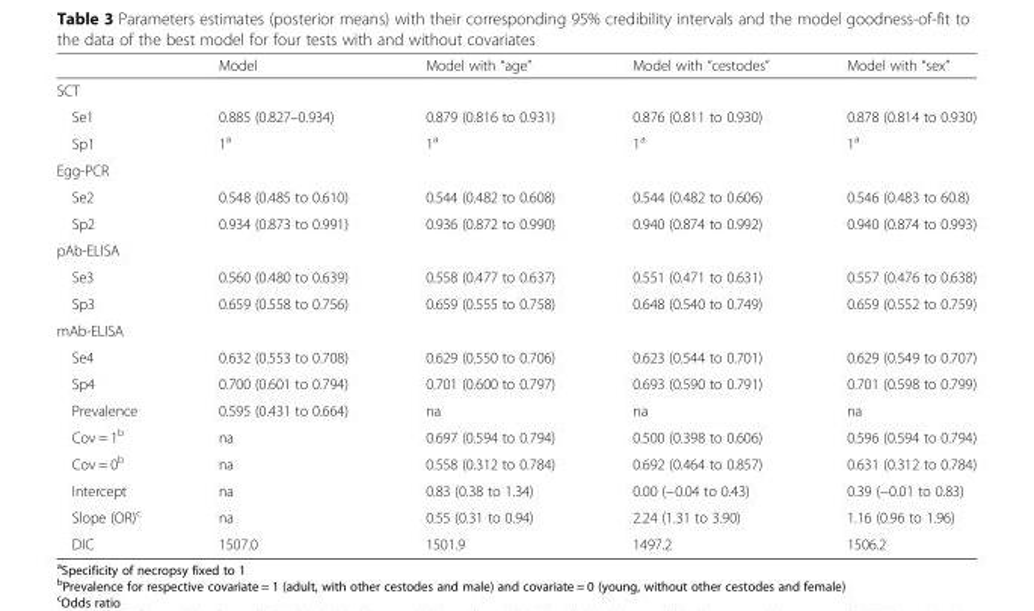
<table><thead><tr><td></td><td>Model</td><td>Model with “age”</td><td>Model with “cestodes”</td><td>Model with “sex”</td></tr></thead><tbody><tr><td colspan="5">SCT</td></tr><tr><td>Se1</td><td>0.885 (0.827–0.934)</td><td>0.879 (0.816 to 0.931)</td><td>0.876 (0.811 to 0.930)</td><td>0.878 (0.814 to 0.930)</td></tr><tr><td>Sp1</td><td>1<sup>a</sup></td><td>1<sup>a</sup></td><td>1<sup>a</sup></td><td>1<sup>a</sup></td></tr><tr><td colspan="5">Egg-PCR</td></tr><tr><td>Se2</td><td>0.548 (0.485 to 0.610)</td><td>0.544 (0.482 to 0.608)</td><td>0.544 (0.482 to 0.606)</td><td>0.546 (0.483 to 60.8)</td></tr><tr><td>Sp2</td><td>0.934 (0.873 to 0.991)</td><td>0.936 (0.872 to 0.990)</td><td>0.940 (0.874 to 0.992)</td><td>0.940 (0.874 to 0.993)</td></tr><tr><td colspan="5">pAb-ELISA</td></tr><tr><td>Se3</td><td>0.560 (0.480 to 0.639)</td><td>0.558 (0.477 to 0.637)</td><td>0.551 (0.471 to 0.631)</td><td>0.557 (0.476 to 0.638)</td></tr><tr><td>Sp3</td><td>0.659 (0.558 to 0.756)</td><td>0.659 (0.555 to 0.758)</td><td>0.648 (0.540 to 0.749)</td><td>0.659 (0.552 to 0.759)</td></tr><tr><td colspan="5">mAb-ELISA</td></tr><tr><td>Se4</td><td>0.632 (0.553 to 0.708)</td><td>0.629 (0.550 to 0.706)</td><td>0.623 (0.544 to 0.701)</td><td>0.629 (0.549 to 0.707)</td></tr><tr><td>Sp4</td><td>0.700 (0.601 to 0.794)</td><td>0.701 (0.600 to 0.797)</td><td>0.693 (0.590 to 0.791)</td><td>0.701 (0.598 to 0.799)</td></tr><tr><td>Prevalence</td><td>0.595 (0.431 to 0.664)</td><td>na</td><td>na</td><td>na</td></tr><tr><td>Cov = 1<sup>b</sup></td><td>na</td><td>0.697 (0.594 to 0.794)</td><td>0.500 (0.398 to 0.606)</td><td>0.596 (0.594 to 0.794)</td></tr><tr><td>Cov = 0<sup>b</sup></td><td>na</td><td>0.558 (0.312 to 0.784)</td><td>0.692 (0.464 to 0.857)</td><td>0.631 (0.312 to 0.784)</td></tr><tr><td>Intercept</td><td>na</td><td>0.83 (0.38 to 1.34)</td><td>0.00 (−0.04 to 0.43)</td><td>0.39 (−0.01 to 0.83)</td></tr><tr><td>Slope (OR)<sup>c</sup></td><td>na</td><td>0.55 (0.31 to 0.94)</td><td>2.24 (1.31 to 3.90)</td><td>1.16 (0.96 to 1.96)</td></tr><tr><td>DIC</td><td>1507.0</td><td>1501.9</td><td>1497.2</td><td>1506.2</td></tr></tbody></table>